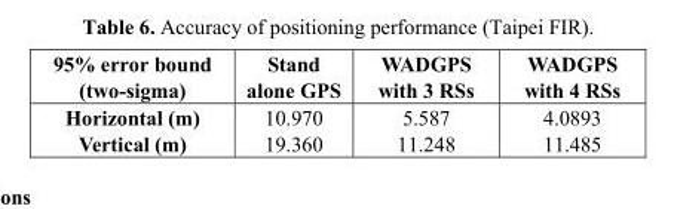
<table><thead><tr><td>95% error bound (two-sigma)</td><td>Stand alone GPS</td><td>WADGPS with 3 RSs</td><td>WADGPS with 4 RSs</td></tr></thead><tbody><tr><td>Horizontal (m)</td><td>10.970</td><td>5.587</td><td>4.0893</td></tr><tr><td>Vertical (m)</td><td>19.360</td><td>11.248</td><td>11.485</td></tr></tbody></table>